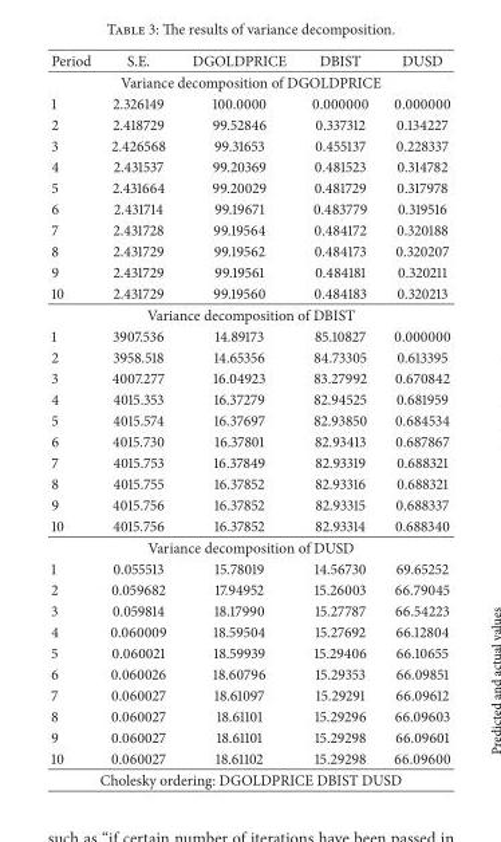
<table><thead><tr><td>Period</td><td>S.E.</td><td>DGOLDPRICE</td><td>DBIST</td><td>DUSD</td></tr></thead><tbody><tr><td colspan="5">Variance decomposition of DGOLDPRICE</td></tr><tr><td>1</td><td>2.326149</td><td>100.0000</td><td>0.000000</td><td>0.000000</td></tr><tr><td>2</td><td>2.418729</td><td>99.52846</td><td>0.337312</td><td>0.134227</td></tr><tr><td>3</td><td>2.426568</td><td>99.31653</td><td>0.455137</td><td>0.228337</td></tr><tr><td>4</td><td>2.431537</td><td>99.20369</td><td>0.481523</td><td>0.314782</td></tr><tr><td>5</td><td>2.431664</td><td>99.20029</td><td>0.481729</td><td>0.317978</td></tr><tr><td>6</td><td>2.431714</td><td>99.19671</td><td>0.483779</td><td>0.319516</td></tr><tr><td>7</td><td>2.431728</td><td>99.19564</td><td>0.484172</td><td>0.320188</td></tr><tr><td>8</td><td>2.431729</td><td>99.19562</td><td>0.484173</td><td>0.320207</td></tr><tr><td>9</td><td>2.431729</td><td>99.19561</td><td>0.484181</td><td>0.320211</td></tr><tr><td>10</td><td>2.431729</td><td>99.19560</td><td>0.484183</td><td>0.320213</td></tr><tr><td colspan="5">Variance decomposition of DBIST</td></tr><tr><td>1</td><td>3907.536</td><td>14.89173</td><td>85.10827</td><td>0.000000</td></tr><tr><td>2</td><td>3958.518</td><td>14.65356</td><td>84.73305</td><td>0.613395</td></tr><tr><td>3</td><td>4007.277</td><td>16.04923</td><td>83.27992</td><td>0.670842</td></tr><tr><td>4</td><td>4015.353</td><td>16.37279</td><td>82.94525</td><td>0.681959</td></tr><tr><td>5</td><td>4015.574</td><td>16.37697</td><td>82.93850</td><td>0.684534</td></tr><tr><td>6</td><td>4015.730</td><td>16.37801</td><td>82.93413</td><td>0.687867</td></tr><tr><td>7</td><td>4015.753</td><td>16.37849</td><td>82.93319</td><td>0.688321</td></tr><tr><td>8</td><td>4015.755</td><td>16.37852</td><td>82.93316</td><td>0.688321</td></tr><tr><td>9</td><td>4015.756</td><td>16.37852</td><td>82.93315</td><td>0.688337</td></tr><tr><td>10</td><td>4015.756</td><td>16.37852</td><td>82.93314</td><td>0.688340</td></tr><tr><td colspan="5">Variance decomposition of DUSD</td></tr><tr><td>1</td><td>0.055513</td><td>15.78019</td><td>14.56730</td><td>69.65252</td></tr><tr><td>2</td><td>0.059682</td><td>17.94952</td><td>15.26003</td><td>66.79045</td></tr><tr><td>3</td><td>0.059814</td><td>18.17990</td><td>15.27787</td><td>66.54223</td></tr><tr><td>4</td><td>0.060009</td><td>18.59504</td><td>15.27692</td><td>66.12804</td></tr><tr><td>5</td><td>0.060021</td><td>18.59939</td><td>15.29406</td><td>66.10655</td></tr><tr><td>6</td><td>0.060026</td><td>18.60796</td><td>15.29353</td><td>66.09851</td></tr><tr><td>7</td><td>0.060027</td><td>18.61097</td><td>15.29291</td><td>66.09612</td></tr><tr><td>8</td><td>0.060027</td><td>18.61101</td><td>15.29296</td><td>66.09603</td></tr><tr><td>9</td><td>0.060027</td><td>18.61101</td><td>15.29298</td><td>66.09601</td></tr><tr><td>10</td><td>0.060027</td><td>18.61102</td><td>15.29298</td><td>66.09600</td></tr><tr><td colspan="5">Cholesky ordering: DGOLDPRICE DBIST DUSD</td></tr></tbody></table>